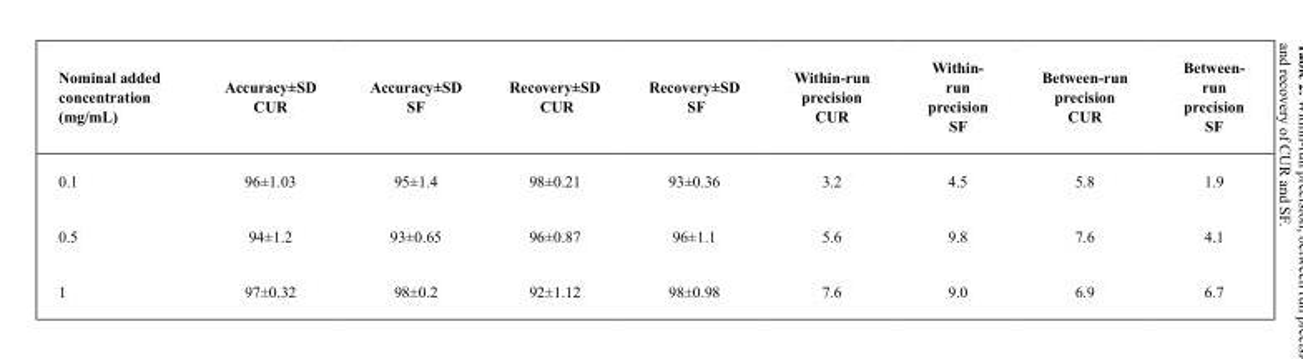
<table><thead><tr><td>Nominal added concentration (mg/mL)</td><td>Accuracy±SD CUR</td><td>Accuracy±SD SF</td><td>Recovery±SD CUR</td><td>Recovery±SD SF</td><td>Within-run precision CUR</td><td>Within- run precision SF</td><td>Between-run precision CUR</td><td>Between- run precision SF</td></tr></thead><tbody><tr><td>0.1</td><td>96±1.03</td><td>95±1.4</td><td>98±0.21</td><td>93±0.36</td><td>3.2</td><td>4.5</td><td>5.8</td><td>1.9</td></tr><tr><td>0.5</td><td>94±1.2</td><td>93±0.65</td><td>96±0.87</td><td>96±1.1</td><td>5.6</td><td>9.8</td><td>7.6</td><td>4.1</td></tr><tr><td>1</td><td>97±0.32</td><td>98±0.2</td><td>92±1.12</td><td>98±0.98</td><td>7.6</td><td>9.0</td><td>6.9</td><td>6.7</td></tr></tbody></table>